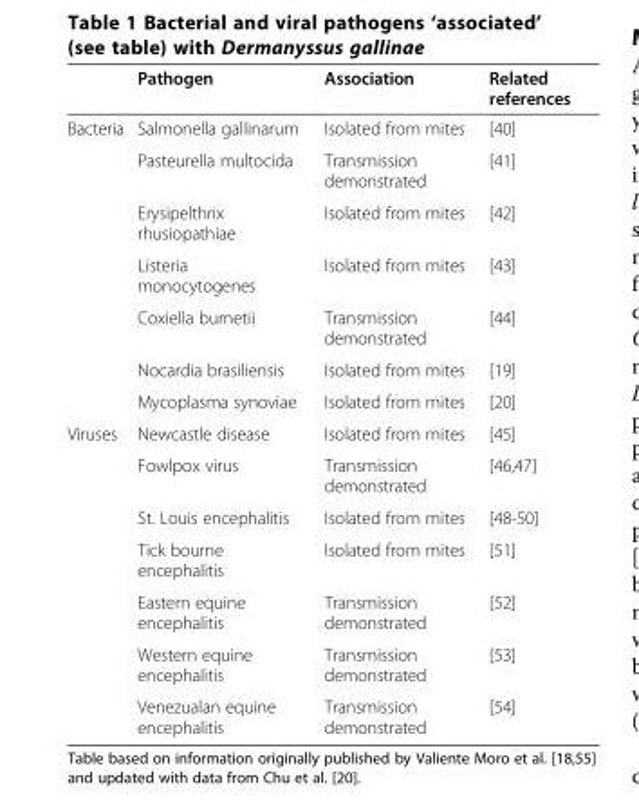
<table><thead><tr><td></td><td>Pathogen</td><td>Association</td><td>Related references</td></tr></thead><tbody><tr><td rowspan="7">Bacteria</td><td>Salmonella gallinarum</td><td>Isolated from mites</td><td>[40]</td></tr><tr><td>Pasteurella multocida</td><td>Transmission demonstrated</td><td>[41]</td></tr><tr><td>Erysipelthrix rhusiopathiae</td><td>Isolated from mites</td><td>[42]</td></tr><tr><td>Listeria monocytogenes</td><td>Isolated from mites</td><td>[43]</td></tr><tr><td>Coxiella burnetii</td><td>Transmission demonstrated</td><td>[44]</td></tr><tr><td>Nocardia brasiliensis</td><td>Isolated from mites</td><td>[19]</td></tr><tr><td>Mycoplasma synoviae</td><td>Isolated from mites</td><td>[20]</td></tr><tr><td rowspan="7">Viruses</td><td>Newcastle disease</td><td>Isolated from mites</td><td>[45]</td></tr><tr><td>Fowlpox virus</td><td>Transmission demonstrated</td><td>[46,47]</td></tr><tr><td>St. Louis encephalitis</td><td>Isolated from mites</td><td>[48-50]</td></tr><tr><td>Tick bourne encephalitis</td><td>Isolated from mites</td><td>[51]</td></tr><tr><td>Eastern equine encephalitis</td><td>Transmission demonstrated</td><td>[52]</td></tr><tr><td>Western equine encephalitis</td><td>Transmission demonstrated</td><td>[53]</td></tr><tr><td>Venezualan equine encephalitis</td><td>Transmission demonstrated</td><td>[54]</td></tr></tbody></table>